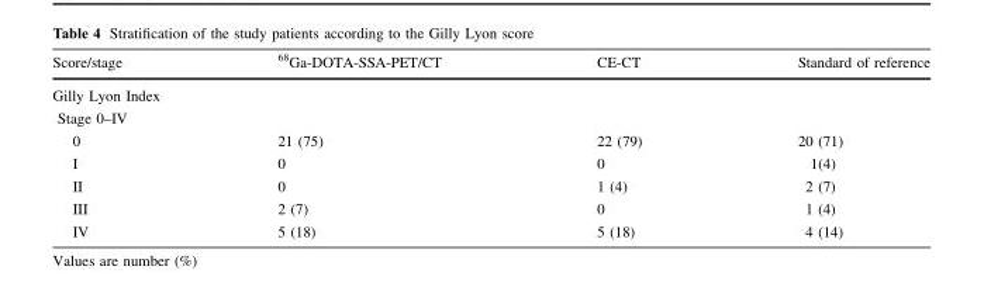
<table><thead><tr><td>Score/stage</td><td><sup>68</sup>Ga-DOTA-SSA-PET/CT</td><td>CE-CT</td><td>Standard of reference</td></tr></thead><tbody><tr><td colspan="4">Gilly Lyon Index Stage 0–IV</td></tr><tr><td>0</td><td>21 (75)</td><td>22 (79)</td><td>20 (71)</td></tr><tr><td>I</td><td>0</td><td>0</td><td>1(4)</td></tr><tr><td>II</td><td>0</td><td>1 (4)</td><td>2 (7)</td></tr><tr><td>III</td><td>2 (7)</td><td>0</td><td>1 (4)</td></tr><tr><td>IV</td><td>5 (18)</td><td>5 (18)</td><td>4 (14)</td></tr></tbody></table>